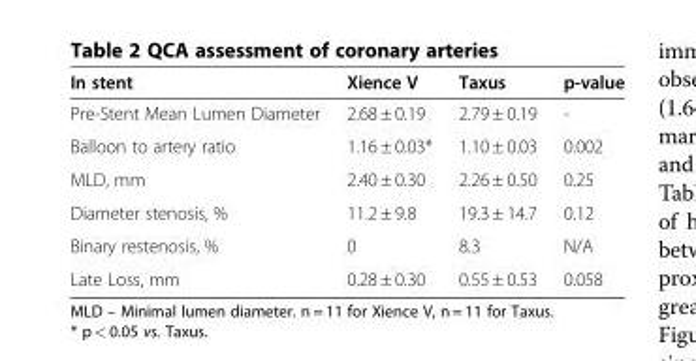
<table><thead><tr><td>In stent</td><td>Xience V</td><td>Taxus</td><td>p-value</td></tr></thead><tbody><tr><td>Pre-Stent Mean Lumen Diameter</td><td>2.68 ± 0.19</td><td>2.79 ± 0.19</td><td>-</td></tr><tr><td>Balloon to artery ratio</td><td>1.16 ± 0.03*</td><td>1.10 ± 0.03</td><td>0.002</td></tr><tr><td>MLD, mm</td><td>2.40 ± 0.30</td><td>2.26 ± 0.50</td><td>0.25</td></tr><tr><td>Diameter stenosis, %</td><td>11.2 ± 9.8</td><td>19.3 ± 14.7</td><td>0.12</td></tr><tr><td>Binary restenosis, %</td><td>0</td><td>8.3</td><td>N/A</td></tr><tr><td>Late Loss, mm</td><td>0.28 ± 0.30</td><td>0.55 ± 0.53</td><td>0.058</td></tr></tbody></table>